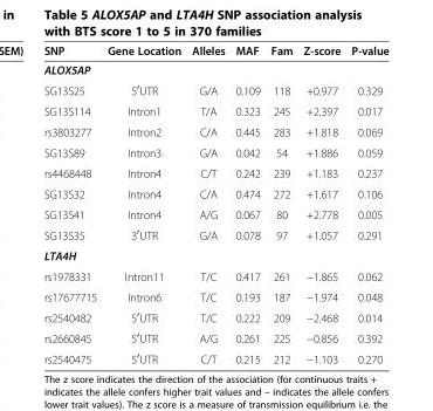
<table><thead><tr><td>SNP</td><td>Gene Location</td><td>Alleles</td><td>MAF</td><td>Fam</td><td>Z-score</td><td>P-value</td></tr></thead><tbody><tr><td colspan="7">ALOX5AP</td></tr><tr><td>SG13S25</td><td>5′UTR</td><td>G/A</td><td>0.109</td><td>118</td><td>+0.977</td><td>0.329</td></tr><tr><td>SG13S114</td><td>Intron1</td><td>T/A</td><td>0.323</td><td>245</td><td>+2.397</td><td>0.017</td></tr><tr><td>rs3803277</td><td>Intron2</td><td>C/A</td><td>0.445</td><td>283</td><td>+1.818</td><td>0.069</td></tr><tr><td>SG13S89</td><td>Intron3</td><td>G/A</td><td>0.042</td><td>54</td><td>+1.886</td><td>0.059</td></tr><tr><td>rs4468448</td><td>Intron4</td><td>C/T</td><td>0.242</td><td>239</td><td>+1.183</td><td>0.237</td></tr><tr><td>SG13S32</td><td>Intron4</td><td>C/A</td><td>0.474</td><td>272</td><td>+1.617</td><td>0.106</td></tr><tr><td>SG13S41</td><td>Intron4</td><td>A/G</td><td>0.067</td><td>80</td><td>+2.778</td><td>0.005</td></tr><tr><td>SG13S35</td><td>3′UTR</td><td>G/A</td><td>0.078</td><td>97</td><td>+1.057</td><td>0.291</td></tr><tr><td colspan="7">LTA4H</td></tr><tr><td>rs1978331</td><td>Intron11</td><td>T/C</td><td>0.417</td><td>261</td><td>−1.865</td><td>0.062</td></tr><tr><td>rs17677715</td><td>Intron6</td><td>T/C</td><td>0.193</td><td>187</td><td>−1.974</td><td>0.048</td></tr><tr><td>rs2540482</td><td>5′UTR</td><td>T/C</td><td>0.222</td><td>209</td><td>−2.468</td><td>0.014</td></tr><tr><td>rs2660845</td><td>5′UTR</td><td>A/G</td><td>0.261</td><td>225</td><td>−0.856</td><td>0.392</td></tr><tr><td>rs2540475</td><td>5′UTR</td><td>C/T</td><td>0.215</td><td>212</td><td>−1.103</td><td>0.270</td></tr></tbody></table>